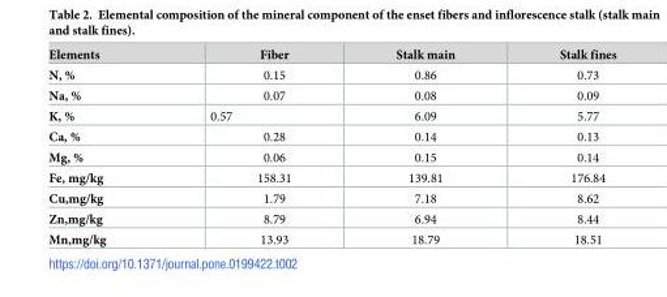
<table><thead><tr><td>Elements</td><td>Fiber</td><td>Stalk main</td><td>Stalk fines</td></tr></thead><tbody><tr><td>N, %</td><td>0.15</td><td>0.86</td><td>0.73</td></tr><tr><td>Na, %</td><td>0.07</td><td>0.08</td><td>0.09</td></tr><tr><td>K, %</td><td>0.57</td><td>6.09</td><td>5.77</td></tr><tr><td>Ca, %</td><td>0.28</td><td>0.14</td><td>0.13</td></tr><tr><td>Mg, %</td><td>0.06</td><td>0.15</td><td>0.14</td></tr><tr><td>Fe, mg/kg</td><td>158.31</td><td>139.81</td><td>176.84</td></tr><tr><td>Cu,mg/kg</td><td>1.79</td><td>7.18</td><td>8.62</td></tr><tr><td>Zn,mg/kg</td><td>8.79</td><td>6.94</td><td>8.44</td></tr><tr><td>Mn,mg/kg</td><td>13.93</td><td>18.79</td><td>18.51</td></tr></tbody></table>